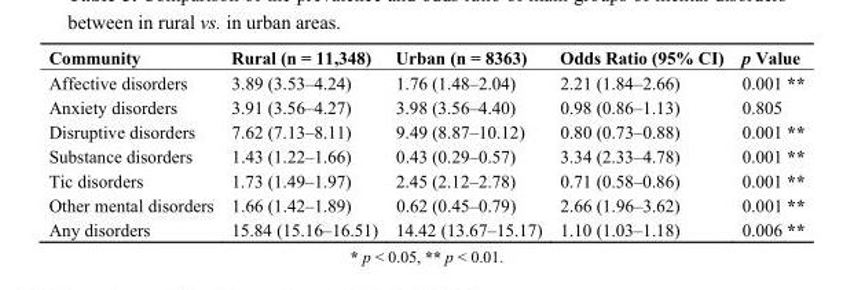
<table><thead><tr><td>Community</td><td>Rural (n = 11,348)</td><td>Urban (n = 8363)</td><td>Odds Ratio (95% CI)</td><td>p Value</td></tr></thead><tbody><tr><td>Affective disorders</td><td>3.89 (3.53–4.24)</td><td>1.76 (1.48–2.04)</td><td>2.21 (1.84–2.66)</td><td>0.001 **</td></tr><tr><td>Anxiety disorders</td><td>3.91 (3.56–4.27)</td><td>3.98 (3.56–4.40)</td><td>0.98 (0.86–1.13)</td><td>0.805</td></tr><tr><td>Disruptive disorders</td><td>7.62 (7.13–8.11)</td><td>9.49 (8.87–10.12)</td><td>0.80 (0.73–0.88)</td><td>0.001 **</td></tr><tr><td>Substance disorders</td><td>1.43 (1.22–1.66)</td><td>0.43 (0.29–0.57)</td><td>3.34 (2.33–4.78)</td><td>0.001 **</td></tr><tr><td>Tic disorders</td><td>1.73 (1.49–1.97)</td><td>2.45 (2.12–2.78)</td><td>0.71 (0.58–0.86)</td><td>0.001 **</td></tr><tr><td>Other mental disorders</td><td>1.66 (1.42–1.89)</td><td>0.62 (0.45–0.79)</td><td>2.66 (1.96–3.62)</td><td>0.001 **</td></tr><tr><td>Any disorders</td><td>15.84 (15.16–16.51)</td><td>14.42 (13.67–15.17)</td><td>1.10 (1.03–1.18)</td><td>0.006 **</td></tr></tbody></table>